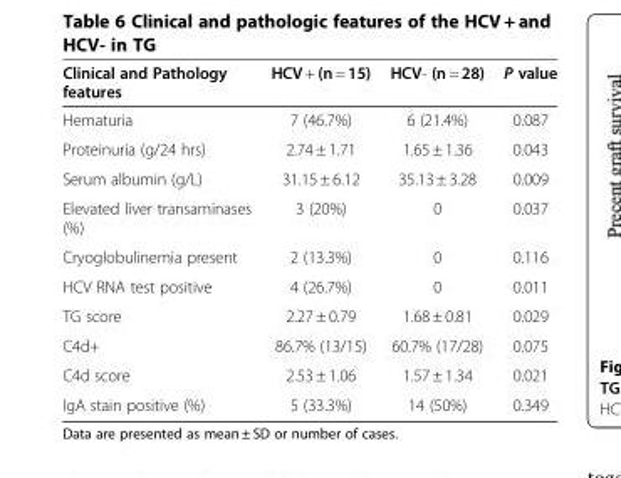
<table><thead><tr><td>Clinical and Pathology features</td><td>HCV + (n = 15)</td><td>HCV- (n = 28)</td><td>P value</td></tr></thead><tbody><tr><td>Hematuria</td><td>7 (46.7%)</td><td>6 (21.4%)</td><td>0.087</td></tr><tr><td>Proteinuria (g/24 hrs)</td><td>2.74 ± 1.71</td><td>1.65 ± 1.36</td><td>0.043</td></tr><tr><td>Serum albumin (g/L)</td><td>31.15 ± 6.12</td><td>35.13 ± 3.28</td><td>0.009</td></tr><tr><td>Elevated liver transaminases (%)</td><td>3 (20%)</td><td>0</td><td>0.037</td></tr><tr><td>Cryoglobulinemia present</td><td>2 (13.3%)</td><td>0</td><td>0.116</td></tr><tr><td>HCV RNA test positive</td><td>4 (26.7%)</td><td>0</td><td>0.011</td></tr><tr><td>TG score</td><td>2.27 ± 0.79</td><td>1.68 ± 0.81</td><td>0.029</td></tr><tr><td>C4d+</td><td>86.7% (13/15)</td><td>60.7% (17/28)</td><td>0.075</td></tr><tr><td>C4d score</td><td>2.53 ± 1.06</td><td>1.57 ± 1.34</td><td>0.021</td></tr><tr><td>IgA stain positive (%)</td><td>5 (33.3%)</td><td>14 (50%)</td><td>0.349</td></tr></tbody></table>